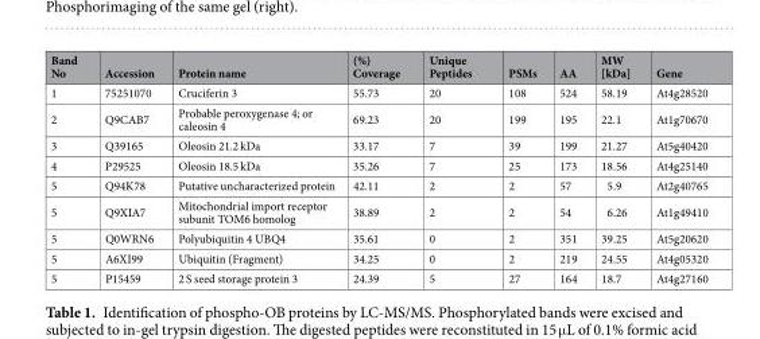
<table><thead><tr><td>Band No</td><td>Accession</td><td>Protein name</td><td>(%) Coverage</td><td>Unique Peptides</td><td>PSMs</td><td>AA</td><td>MW [kDa]</td><td>Gene</td></tr></thead><tbody><tr><td>1</td><td>75251070</td><td>Cruciferin 3</td><td>55.73</td><td>20</td><td>108</td><td>524</td><td>58.19</td><td>At4g28520</td></tr><tr><td>2</td><td>Q9CAB7</td><td>Probable peroxygenase 4; or caleosin 4</td><td>69.23</td><td>20</td><td>199</td><td>195</td><td>22.1</td><td>At1g70670</td></tr><tr><td>3</td><td>Q39165</td><td>Oleosin 21.2 kDa</td><td>33.17</td><td>7</td><td>39</td><td>199</td><td>21.27</td><td>At5g40420</td></tr><tr><td>4</td><td>P29525</td><td>Oleosin 18.5 kDa</td><td>35.26</td><td>7</td><td>25</td><td>173</td><td>18.56</td><td>At4g25140</td></tr><tr><td>5</td><td>Q94K78</td><td>Putative uncharacterized protein</td><td>42.11</td><td>2</td><td>2</td><td>57</td><td>5.9</td><td>At2g40765</td></tr><tr><td>5</td><td>Q9XIA7</td><td>Mitochondrial import receptor subunit TOM6 homolog</td><td>38.89</td><td>2</td><td>2</td><td>54</td><td>6.26</td><td>At1g49410</td></tr><tr><td>5</td><td>Q0WRN6</td><td>Polyubiquitin 4 UBQ4</td><td>35.61</td><td>0</td><td>2</td><td>351</td><td>39.25</td><td>At5g20620</td></tr><tr><td>5</td><td>A6XI99</td><td>Ubiquitin (Fragment)</td><td>34.25</td><td>0</td><td>2</td><td>219</td><td>24.55</td><td>At4g05320</td></tr><tr><td>5</td><td>P15459</td><td>2 S seed storage protein 3</td><td>24.39</td><td>5</td><td>27</td><td>164</td><td>18.7</td><td>At4g27160</td></tr></tbody></table>